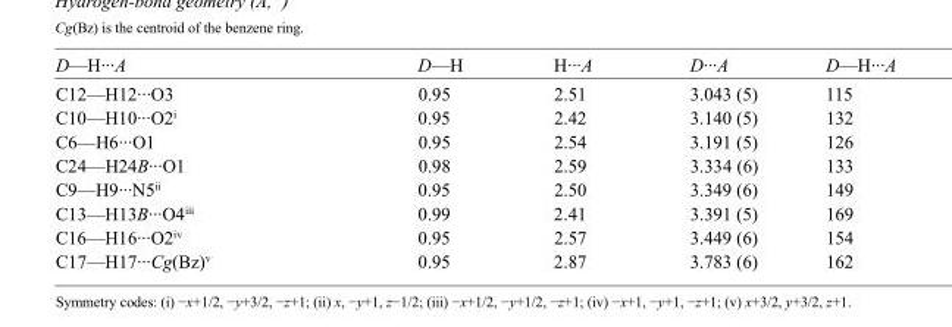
<table><tbody><tr><td>D—H···A</td><td>D—H</td><td>H···A</td><td>D···A</td><td>D—H···A</td></tr><tr><td>C12—H12···O3</td><td>0.95</td><td>2.51</td><td>3.043 (5)</td><td>115</td></tr><tr><td>C10—H10···O2<sup>i</sup></td><td>0.95</td><td>2.42</td><td>3.140 (5)</td><td>132</td></tr><tr><td>C6—H6···O1</td><td>0.95</td><td>2.54</td><td>3.191 (5)</td><td>126</td></tr><tr><td>C24—H24B···O1</td><td>0.98</td><td>2.59</td><td>3.334 (6)</td><td>133</td></tr><tr><td>C9—H9···N5<sup>ii</sup></td><td>0.95</td><td>2.50</td><td>3.349 (6)</td><td>149</td></tr><tr><td>C13—H13B···O4<sup>iii</sup></td><td>0.99</td><td>2.41</td><td>3.391 (5)</td><td>169</td></tr><tr><td>C16—H16···O2<sup>iv</sup></td><td>0.95</td><td>2.57</td><td>3.449 (6)</td><td>154</td></tr><tr><td>C17—H17···Cg(Bz)<sup>v</sup></td><td>0.95</td><td>2.87</td><td>3.783 (6)</td><td>162</td></tr></tbody></table>